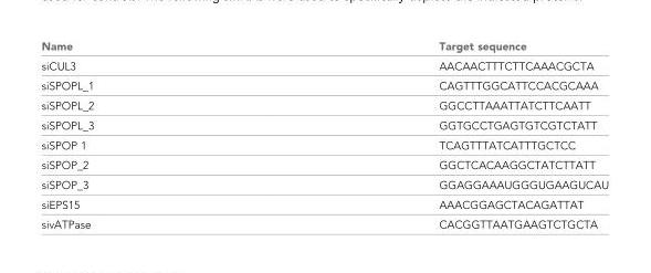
<table><thead><tr><td>Name</td><td>Target sequence</td></tr></thead><tbody><tr><td>siCUL3</td><td>AACAACTTTCTTCAAACGCTA</td></tr><tr><td>siSPOPL_1</td><td>CAGTTTGGCATTCCACGCAAA</td></tr><tr><td>siSPOPL_2</td><td>GGCCTTAAATTATCTTCAATT</td></tr><tr><td>siSPOPL_3</td><td>GGTGCCTGAGTGTCGTCTATT</td></tr><tr><td>siSPOP 1</td><td>TCAGTTTATCATTTGCTCC</td></tr><tr><td>siSPOP_2</td><td>GGCTCACAAGGCTATCTTATT</td></tr><tr><td>siSPOP_3</td><td>GGAGGAAAUGGGUGAAGUCAU</td></tr><tr><td>siEPS15</td><td>AAACGGAGCTACAGATTAT</td></tr><tr><td>sivATPase</td><td>CACGGTTAATGAAGTCTGCTA</td></tr></tbody></table>